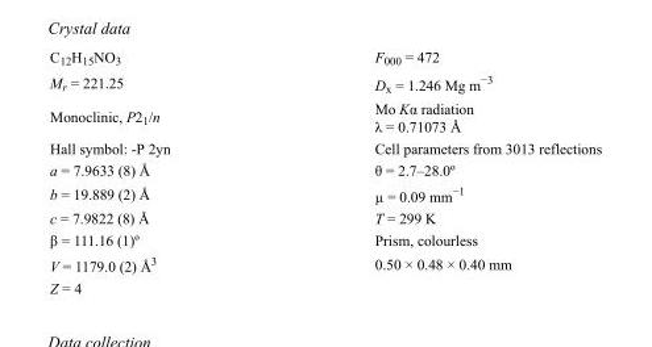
<table><tbody><tr><td>C<sub>12</sub>H<sub>15</sub>NO<sub>3</sub></td><td>F000 = 472</td></tr><tr><td>M<sub>r</sub> = 221.25</td><td>D<sub>x</sub> = 1.246 Mg m<sup>−3</sup></td></tr><tr><td>Monoclinic, P2<sub>1</sub>/n</td><td>Mo Kα radiation λ = 0.71073 Å</td></tr><tr><td>Hall symbol: -P 2yn</td><td>Cell parameters from 3013 reflections</td></tr><tr><td>a = 7.9633 (8) Å</td><td>θ = 2.7–28.0º</td></tr><tr><td>b = 19.889 (2) Å</td><td>µ = 0.09 mm<sup>−1</sup></td></tr><tr><td>c = 7.9822 (8) Å</td><td>T = 299 K</td></tr><tr><td>β = 111.16 (1)º</td><td>Prism, colourless</td></tr><tr><td>V = 1179.0 (2) Å<sup>3</sup></td><td>0.50 × 0.48 × 0.40 mm</td></tr><tr><td>Z = 4</td><td></td></tr></tbody></table>